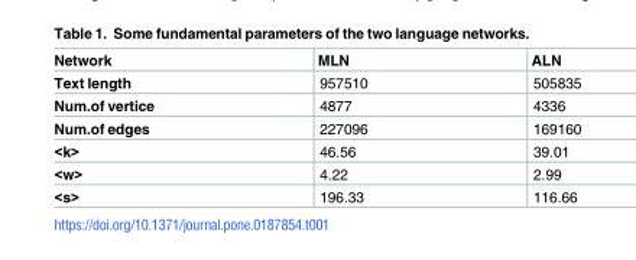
<table><thead><tr><td>Network</td><td>MLN</td><td>ALN</td></tr></thead><tbody><tr><td>Text length</td><td>957510</td><td>505835</td></tr><tr><td>Num.of vertice</td><td>4877</td><td>4336</td></tr><tr><td>Num.of edges</td><td>227096</td><td>169160</td></tr><tr><td>&lt;k&gt;</td><td>46.56</td><td>39.01</td></tr><tr><td>&lt;w&gt;</td><td>4.22</td><td>2.99</td></tr><tr><td>&lt;s&gt;</td><td>196.33</td><td>116.66</td></tr></tbody></table>